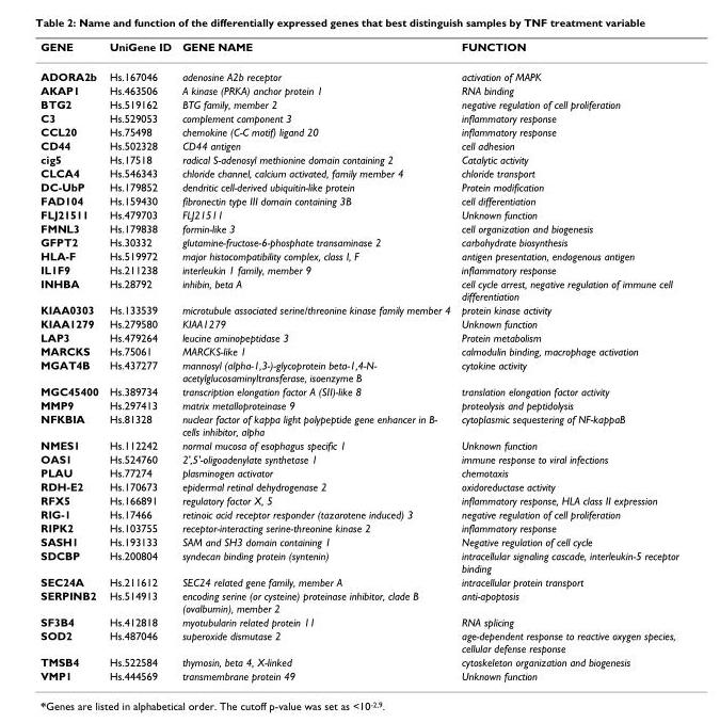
<table><thead><tr><td>GENE</td><td>UniGene ID</td><td>GENE NAME</td><td>FUNCTION</td></tr></thead><tbody><tr><td>ADORA2b</td><td>Hs.167046</td><td>adenosine A2b receptor</td><td>activation of MAPK</td></tr><tr><td>AKAP1</td><td>Hs.463506</td><td>A kinase (PRKA) anchor protein 1</td><td>RNA binding</td></tr><tr><td>BTG2</td><td>Hs.519162</td><td>BTG family, member 2</td><td>negative regulation of cell proliferation</td></tr><tr><td>C3</td><td>Hs.529053</td><td>complement component 3</td><td>inflammatory response</td></tr><tr><td>CCL20</td><td>Hs.75498</td><td>chemokine (C-C motif) ligand 20</td><td>inflammatory response</td></tr><tr><td>CD44</td><td>Hs.502328</td><td>CD44 antigen</td><td>cell adhesion</td></tr><tr><td>cig5</td><td>Hs.17518</td><td>radical S-adenosyl methionine domain containing 2</td><td>Catalytic activity</td></tr><tr><td>CLCA4</td><td>Hs.546343</td><td>chloride channel, calcium activated, family member 4</td><td>chloride transport</td></tr><tr><td>DC-UbP</td><td>Hs.179852</td><td>dendritic cell-derived ubiquitin-like protein</td><td>Protein modification</td></tr><tr><td>FAD104</td><td>Hs.159430</td><td>fibronectin type III domain containing 3B</td><td>cell differentiation</td></tr><tr><td>FLJ21511</td><td>Hs.479703</td><td>FLJ21511</td><td>Unknown function</td></tr><tr><td>FMNL3</td><td>Hs.179838</td><td>formin-like 3</td><td>cell organization and biogenesis</td></tr><tr><td>GFPT2</td><td>Hs.30332</td><td>glutamine-fructose-6-phosphate transaminase 2</td><td>carbohydrate biosynthesis</td></tr><tr><td>HLA-F</td><td>Hs.519972</td><td>major histocompatibility complex, class I, F</td><td>antigen presentation, endogenous antigen</td></tr><tr><td>IL1F9</td><td>Hs.211238</td><td>interleukin 1 family, member 9</td><td>inflammatory response</td></tr><tr><td>INHBA</td><td>Hs.28792</td><td>inhibin, beta A</td><td>cell cycle arrest, negative regulation of immune cell differentiation</td></tr><tr><td>KIAA0303</td><td>Hs.133539</td><td>microtubule associated serine/threonine kinase family member 4</td><td>protein kinase activity</td></tr><tr><td>KIAA1279</td><td>Hs.279580</td><td>KIAA1279</td><td>Unknown function</td></tr><tr><td>LAP3</td><td>Hs.479264</td><td>leucine aminopeptidase 3</td><td>Protein metabolism</td></tr><tr><td>MARCKS</td><td>Hs.75061</td><td>MARCKS-like 1</td><td>calmodulin binding, macrophage activation</td></tr><tr><td>MGAT4B</td><td>Hs.437277</td><td>mannosyl (alpha-1,3-)-glycoprotein beta-1,4-N- acetylglucosaminyltransferase, isoenzyme B</td><td>cytokine activity</td></tr><tr><td>MGC45400</td><td>Hs.389734</td><td>transcription elongation factor A (SII)-like 8</td><td>translation elongation factor activity</td></tr><tr><td>MMP9</td><td>Hs.297413</td><td>matrix metalloproteinase 9</td><td>proteolysis and peptidolysis</td></tr><tr><td>NFKBIA</td><td>Hs.81328</td><td>nuclear factor of kappa light polypeptide gene enhancer in B- cells inhibitor, alpha</td><td>cytoplasmic sequestering of NF-kappaB</td></tr><tr><td>NMES1</td><td>Hs.112242</td><td>normal mucosa of esophagus specific 1</td><td>Unknown function</td></tr><tr><td>OAS1</td><td>Hs.524760</td><td>2&#x27;,5&#x27;-oligoadenylate synthetase 1</td><td>immune response to viral infections</td></tr><tr><td>PLAU</td><td>Hs.77274</td><td>plasminogen activator</td><td>chemotaxis</td></tr><tr><td>RDH-E2</td><td>Hs.170673</td><td>epidermal retinal dehydrogenase 2</td><td>oxidoreductase activity</td></tr><tr><td>RFX5</td><td>Hs.166891</td><td>regulatory factor X, 5</td><td>inflammatory response, HLA class II expression</td></tr><tr><td>RIG-1</td><td>Hs.17466</td><td>retinoic acid receptor responder (tazarotene induced) 3</td><td>negative regulation of cell proliferation</td></tr><tr><td>RIPK2</td><td>Hs.103755</td><td>receptor-interacting serine-threonine kinase 2</td><td>inflammatory response</td></tr><tr><td>SASH1</td><td>Hs.193133</td><td>SAM and SH3 domain containing 1</td><td>Negative regulation of cell cycle</td></tr><tr><td>SDCBP</td><td>Hs.200804</td><td>syndecan binding protein (syntenin)</td><td>intracellular signaling cascade, interleukin-5 receptor binding</td></tr><tr><td>SEC24A</td><td>Hs.211612</td><td>SEC24 related gene family, member A</td><td>intracellular protein transport</td></tr><tr><td>SERPINB2</td><td>Hs.514913</td><td>encoding serine (or cysteine) proteinase inhibitor, clade B (ovalbumin), member 2</td><td>anti-apoptosis</td></tr><tr><td>SF3B4</td><td>Hs.412818</td><td>myotubularin related protein 11</td><td>RNA splicing</td></tr><tr><td>SOD2</td><td>Hs.487046</td><td>superoxide dismutase 2</td><td>age-dependent response to reactive oxygen species, cellular defense response</td></tr><tr><td>TMSB4</td><td>Hs.522584</td><td>thymosin, beta 4, X-linked</td><td>cytoskeleton organization and biogenesis</td></tr><tr><td>VMP1</td><td>Hs.444569</td><td>transmembrane protein 49</td><td>Unknown function</td></tr></tbody></table>